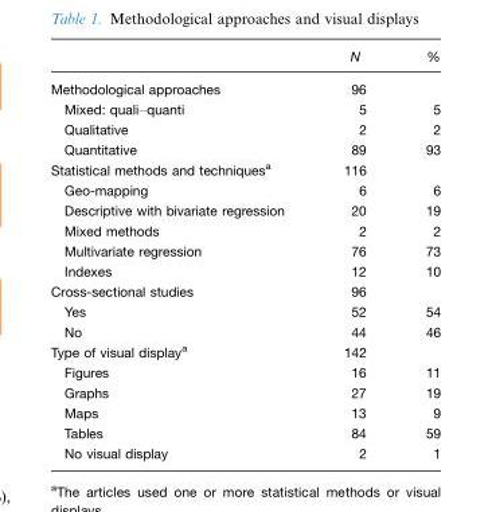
<table><thead><tr><td></td><td>N</td><td>%</td></tr></thead><tbody><tr><td>Methodological approaches</td><td>96</td><td></td></tr><tr><td>Mixed: quali–quanti</td><td>5</td><td>5</td></tr><tr><td>Qualitative</td><td>2</td><td>2</td></tr><tr><td>Quantitative</td><td>89</td><td>93</td></tr><tr><td>Statistical methods and techniques<sup>a</sup></td><td>116</td><td></td></tr><tr><td>Geo-mapping</td><td>6</td><td>6</td></tr><tr><td>Descriptive with bivariate regression</td><td>20</td><td>19</td></tr><tr><td>Mixed methods</td><td>2</td><td>2</td></tr><tr><td>Multivariate regression</td><td>76</td><td>73</td></tr><tr><td>Indexes</td><td>12</td><td>10</td></tr><tr><td>Cross-sectional studies</td><td>96</td><td></td></tr><tr><td>Yes</td><td>52</td><td>54</td></tr><tr><td>No</td><td>44</td><td>46</td></tr><tr><td>Type of visual display<sup>a</sup></td><td>142</td><td></td></tr><tr><td>Figures</td><td>16</td><td>11</td></tr><tr><td>Graphs</td><td>27</td><td>19</td></tr><tr><td>Maps</td><td>13</td><td>9</td></tr><tr><td>Tables</td><td>84</td><td>59</td></tr><tr><td>No visual display</td><td>2</td><td>1</td></tr></tbody></table>